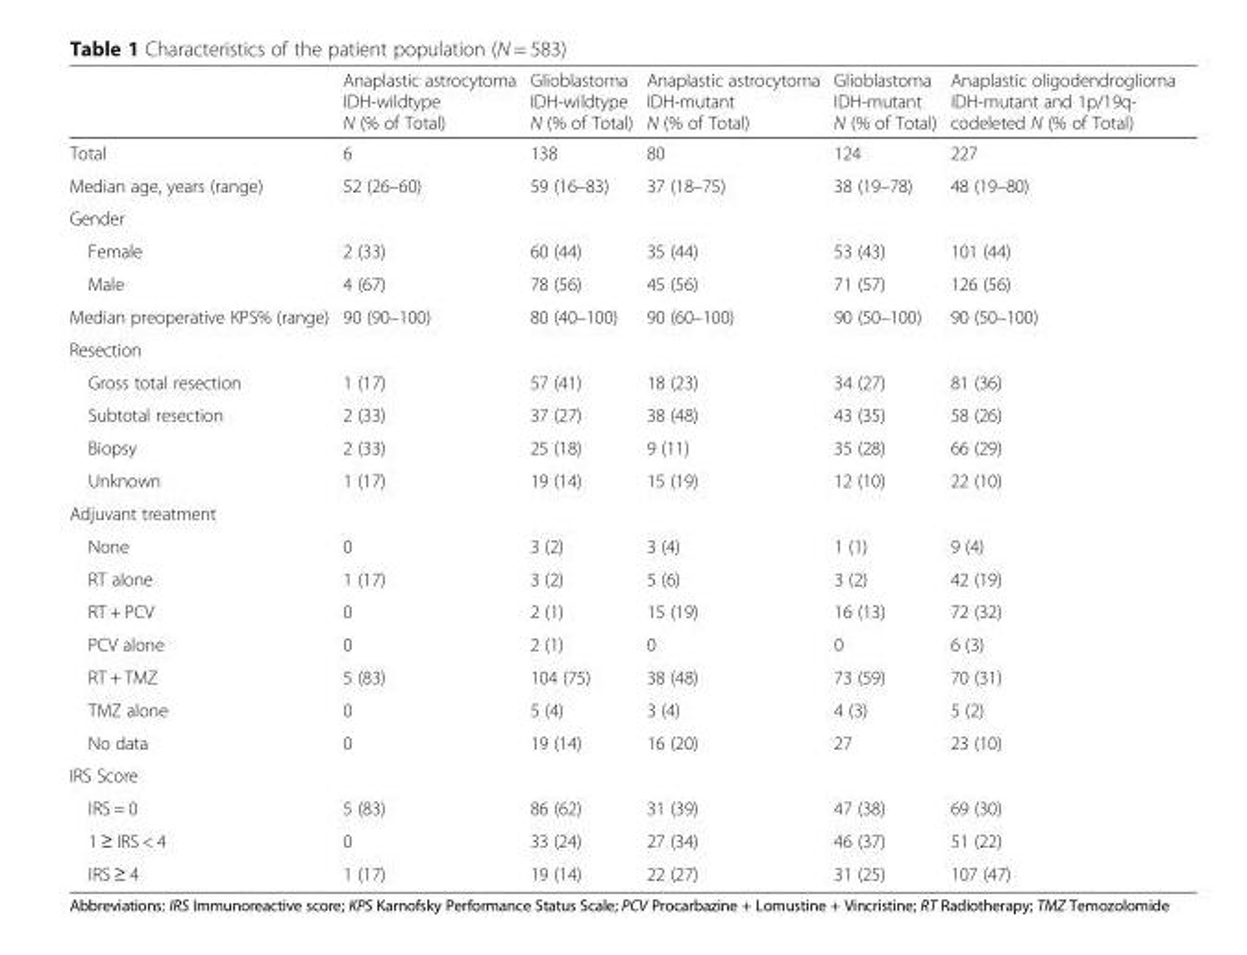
<table><thead><tr><td></td><td>Anaplastic astrocytoma IDH-wildtype N (% of Total)</td><td>Glioblastoma IDH-wildtype N (% of Total)</td><td>Anaplastic astrocytoma IDH-mutant N (% of Total)</td><td>Glioblastoma IDH-mutant N (% of Total)</td><td>Anaplastic oligodendroglioma IDH-mutant and 1p/19q- codeleted N (% of Total)</td></tr></thead><tbody><tr><td>Total</td><td>6</td><td>138</td><td>80</td><td>124</td><td>227</td></tr><tr><td>Median age, years (range)</td><td>52 (26–60)</td><td>59 (16–83)</td><td>37 (18–75)</td><td>38 (19–78)</td><td>48 (19–80)</td></tr><tr><td colspan="6">Gender</td></tr><tr><td>Female</td><td>2 (33)</td><td>60 (44)</td><td>35 (44)</td><td>53 (43)</td><td>101 (44)</td></tr><tr><td>Male</td><td>4 (67)</td><td>78 (56)</td><td>45 (56)</td><td>71 (57)</td><td>126 (56)</td></tr><tr><td>Median preoperative KPS% (range)</td><td>90 (90–100)</td><td>80 (40–100)</td><td>90 (60–100)</td><td>90 (50–100)</td><td>90 (50–100)</td></tr><tr><td colspan="6">Resection</td></tr><tr><td>Gross total resection</td><td>1 (17)</td><td>57 (41)</td><td>18 (23)</td><td>34 (27)</td><td>81 (36)</td></tr><tr><td>Subtotal resection</td><td>2 (33)</td><td>37 (27)</td><td>38 (48)</td><td>43 (35)</td><td>58 (26)</td></tr><tr><td>Biopsy</td><td>2 (33)</td><td>25 (18)</td><td>9 (11)</td><td>35 (28)</td><td>66 (29)</td></tr><tr><td>Unknown</td><td>1 (17)</td><td>19 (14)</td><td>15 (19)</td><td>12 (10)</td><td>22 (10)</td></tr><tr><td colspan="6">Adjuvant treatment</td></tr><tr><td>None</td><td>0</td><td>3 (2)</td><td>3 (4)</td><td>1 (1)</td><td>9 (4)</td></tr><tr><td>RT alone</td><td>1 (17)</td><td>3 (2)</td><td>5 (6)</td><td>3 (2)</td><td>42 (19)</td></tr><tr><td>RT + PCV</td><td>0</td><td>2 (1)</td><td>15 (19)</td><td>16 (13)</td><td>72 (32)</td></tr><tr><td>PCV alone</td><td>0</td><td>2 (1)</td><td>0</td><td>0</td><td>6 (3)</td></tr><tr><td>RT + TMZ</td><td>5 (83)</td><td>104 (75)</td><td>38 (48)</td><td>73 (59)</td><td>70 (31)</td></tr><tr><td>TMZ alone</td><td>0</td><td>5 (4)</td><td>3 (4)</td><td>4 (3)</td><td>5 (2)</td></tr><tr><td>No data</td><td>0</td><td>19 (14)</td><td>16 (20)</td><td>27</td><td>23 (10)</td></tr><tr><td colspan="6">IRS Score</td></tr><tr><td>IRS = 0</td><td>5 (83)</td><td>86 (62)</td><td>31 (39)</td><td>47 (38)</td><td>69 (30)</td></tr><tr><td>1 ≥ IRS &lt; 4</td><td>0</td><td>33 (24)</td><td>27 (34)</td><td>46 (37)</td><td>51 (22)</td></tr><tr><td>IRS ≥ 4</td><td>1 (17)</td><td>19 (14)</td><td>22 (27)</td><td>31 (25)</td><td>107 (47)</td></tr></tbody></table>